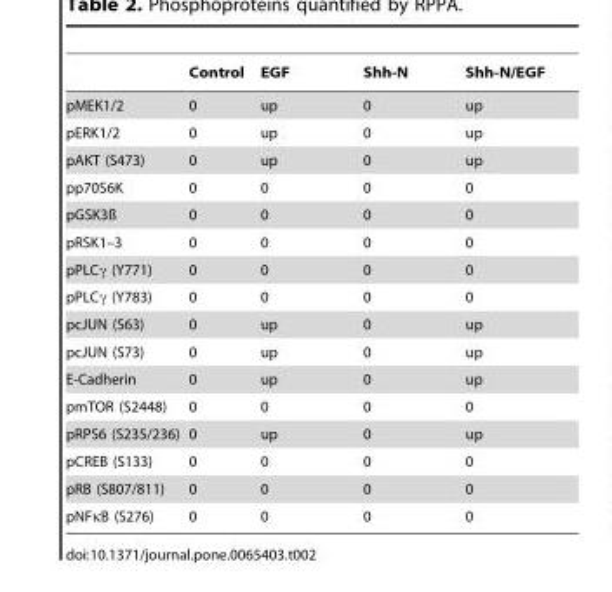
<table><thead><tr><td></td><td>Control</td><td>EGF</td><td>Shh-N</td><td>Shh-N/EGF</td></tr></thead><tbody><tr><td>pMEK1/2</td><td>0</td><td>up</td><td>0</td><td>up</td></tr><tr><td>pERK1/2</td><td>0</td><td>up</td><td>0</td><td>up</td></tr><tr><td>pAKT (S473)</td><td>0</td><td>up</td><td>0</td><td>up</td></tr><tr><td>pp70S6K</td><td>0</td><td>0</td><td>0</td><td>0</td></tr><tr><td>pGSK3ß</td><td>0</td><td>0</td><td>0</td><td>0</td></tr><tr><td>pRSK1–3</td><td>0</td><td>0</td><td>0</td><td>0</td></tr><tr><td>pPLCγ (Y771)</td><td>0</td><td>0</td><td>0</td><td>0</td></tr><tr><td>pPLCγ (Y783)</td><td>0</td><td>0</td><td>0</td><td>0</td></tr><tr><td>pcJUN (S63)</td><td>0</td><td>up</td><td>0</td><td>up</td></tr><tr><td>pcJUN (S73)</td><td>0</td><td>up</td><td>0</td><td>up</td></tr><tr><td>E-Cadherin</td><td>0</td><td>up</td><td>0</td><td>up</td></tr><tr><td>pmTOR (S2448)</td><td>0</td><td>0</td><td>0</td><td>0</td></tr><tr><td>pRPS6 (S235/236)</td><td>0</td><td>up</td><td>0</td><td>up</td></tr><tr><td>pCREB (S133)</td><td>0</td><td>0</td><td>0</td><td>0</td></tr><tr><td>pRB (S807/811)</td><td>0</td><td>0</td><td>0</td><td>0</td></tr><tr><td>pNFκB (S276)</td><td>0</td><td>0</td><td>0</td><td>0</td></tr></tbody></table>